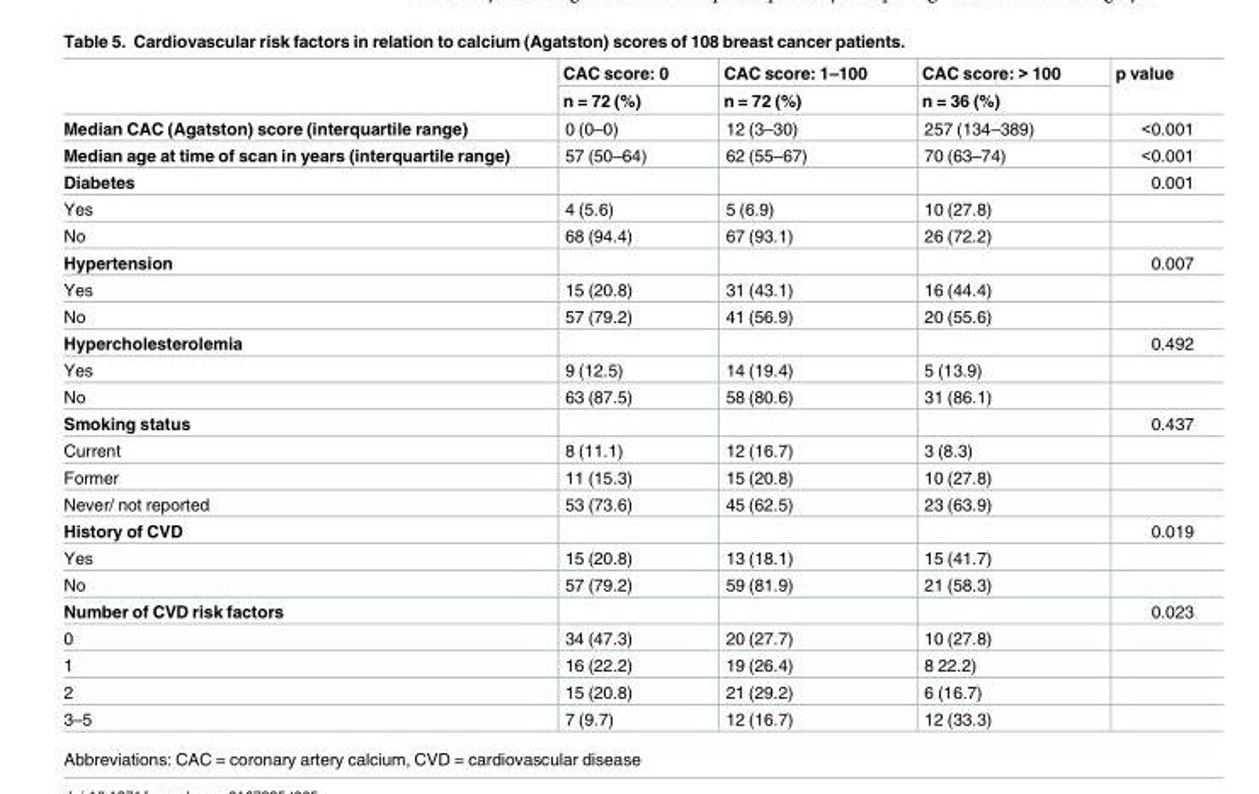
<table><thead><tr><td rowspan="2"></td><td rowspan="2">CAC score: 0 n = 72 (%)</td><td rowspan="2">CAC score: 1–100 n = 72 (%)</td><td rowspan="2">CAC score: &gt; 100 n = 36 (%)</td><td rowspan="2">p value</td></tr><tr></tr></thead><tbody><tr><td>Median CAC (Agatston) score (interquartile range)</td><td>0 (0–0)</td><td>12 (3–30)</td><td>257 (134–389)</td><td>&lt;0.001</td></tr><tr><td>Median age at time of scan in years (interquartile range)</td><td>57 (50–64)</td><td>62 (55–67)</td><td>70 (63–74)</td><td>&lt;0.001</td></tr><tr><td>Diabetes</td><td></td><td></td><td></td><td>0.001</td></tr><tr><td>Yes</td><td>4 (5.6)</td><td>5 (6.9)</td><td>10 (27.8)</td><td></td></tr><tr><td>No</td><td>68 (94.4)</td><td>67 (93.1)</td><td>26 (72.2)</td><td></td></tr><tr><td>Hypertension</td><td></td><td></td><td></td><td>0.007</td></tr><tr><td>Yes</td><td>15 (20.8)</td><td>31 (43.1)</td><td>16 (44.4)</td><td></td></tr><tr><td>No</td><td>57 (79.2)</td><td>41 (56.9)</td><td>20 (55.6)</td><td></td></tr><tr><td>Hypercholesterolemia</td><td></td><td></td><td></td><td>0.492</td></tr><tr><td>Yes</td><td>9 (12.5)</td><td>14 (19.4)</td><td>5 (13.9)</td><td></td></tr><tr><td>No</td><td>63 (87.5)</td><td>58 (80.6)</td><td>31 (86.1)</td><td></td></tr><tr><td>Smoking status</td><td></td><td></td><td></td><td>0.437</td></tr><tr><td>Current</td><td>8 (11.1)</td><td>12 (16.7)</td><td>3 (8.3)</td><td></td></tr><tr><td>Former</td><td>11 (15.3)</td><td>15 (20.8)</td><td>10 (27.8)</td><td></td></tr><tr><td>Never/ not reported</td><td>53 (73.6)</td><td>45 (62.5)</td><td>23 (63.9)</td><td></td></tr><tr><td>History of CVD</td><td></td><td></td><td></td><td>0.019</td></tr><tr><td>Yes</td><td>15 (20.8)</td><td>13 (18.1)</td><td>15 (41.7)</td><td></td></tr><tr><td>No</td><td>57 (79.2)</td><td>59 (81.9)</td><td>21 (58.3)</td><td></td></tr><tr><td>Number of CVD risk factors</td><td></td><td></td><td></td><td>0.023</td></tr><tr><td>0</td><td>34 (47.3)</td><td>20 (27.7)</td><td>10 (27.8)</td><td></td></tr><tr><td>1</td><td>16 (22.2)</td><td>19 (26.4)</td><td>8 22.2)</td><td></td></tr><tr><td>2</td><td>15 (20.8)</td><td>21 (29.2)</td><td>6 (16.7)</td><td></td></tr><tr><td>3–5</td><td>7 (9.7)</td><td>12 (16.7)</td><td>12 (33.3)</td><td></td></tr></tbody></table>